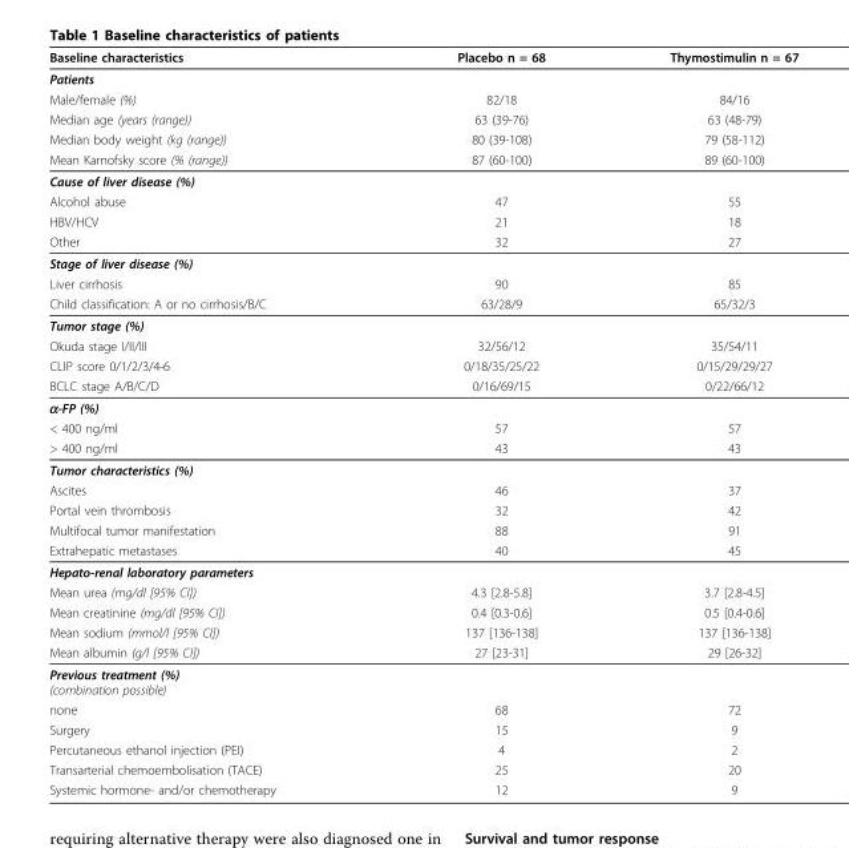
<table><thead><tr><td>Baseline characteristics</td><td>Placebo n = 68</td><td>Thymostimulin n = 67</td></tr></thead><tbody><tr><td colspan="3">Patients</td></tr><tr><td>Male/female (%)</td><td>82/18</td><td>84/16</td></tr><tr><td>Median age (years (range))</td><td>63 (39-76)</td><td>63 (48-79)</td></tr><tr><td>Median body weight (kg (range))</td><td>80 (39-108)</td><td>79 (58-112)</td></tr><tr><td>Mean Karnofsky score (% (range))</td><td>87 (60-100)</td><td>89 (60-100)</td></tr><tr><td colspan="3">Cause of liver disease (%)</td></tr><tr><td>Alcohol abuse</td><td>47</td><td>55</td></tr><tr><td>HBV/HCV</td><td>21</td><td>18</td></tr><tr><td>Other</td><td>32</td><td>27</td></tr><tr><td colspan="3">Stage of liver disease (%)</td></tr><tr><td>Liver cirrhosis</td><td>90</td><td>85</td></tr><tr><td>Child classification: A or no cirrhosis/B/C</td><td>63/28/9</td><td>65/32/3</td></tr><tr><td colspan="3">Tumor stage (%)</td></tr><tr><td>Okuda stage I/II/III</td><td>32/56/12</td><td>35/54/11</td></tr><tr><td>CLIP score 0/1/2/3/4-6</td><td>0/18/35/25/22</td><td>0/15/29/29/27</td></tr><tr><td>BCLC stage A/B/C/D</td><td>0/16/69/15</td><td>0/22/66/12</td></tr><tr><td colspan="3">α-FP (%)</td></tr><tr><td>&lt; 400 ng/ml</td><td>57</td><td>57</td></tr><tr><td>&gt; 400 ng/ml</td><td>43</td><td>43</td></tr><tr><td colspan="3">Tumor characteristics (%)</td></tr><tr><td>Ascites</td><td>46</td><td>37</td></tr><tr><td>Portal vein thrombosis</td><td>32</td><td>42</td></tr><tr><td>Multifocal tumor manifestation</td><td>88</td><td>91</td></tr><tr><td>Extrahepatic metastases</td><td>40</td><td>45</td></tr><tr><td colspan="3">Hepato-renal laboratory parameters</td></tr><tr><td>Mean urea (mg/dl [95% CI])</td><td>4.3 [2.8-5.8]</td><td>3.7 [2.8-4.5]</td></tr><tr><td>Mean creatinine (mg/dl [95% CI])</td><td>0.4 [0.3-0.6]</td><td>0.5 [0.4-0.6]</td></tr><tr><td>Mean sodium (mmol/l [95% CI])</td><td>137 [136-138]</td><td>137 [136-138]</td></tr><tr><td>Mean albumin (g/l [95% CI])</td><td>27 [23-31]</td><td>29 [26-32]</td></tr><tr><td colspan="3">Previous treatment (%) (combination possible)</td></tr><tr><td>none</td><td>68</td><td>72</td></tr><tr><td>Surgery</td><td>15</td><td>9</td></tr><tr><td>Percutaneous ethanol injection (PEI)</td><td>4</td><td>2</td></tr><tr><td>Transarterial chemoembolisation (TACE)</td><td>25</td><td>20</td></tr><tr><td>Systemic hormone- and/or chemotherapy</td><td>12</td><td>9</td></tr></tbody></table>